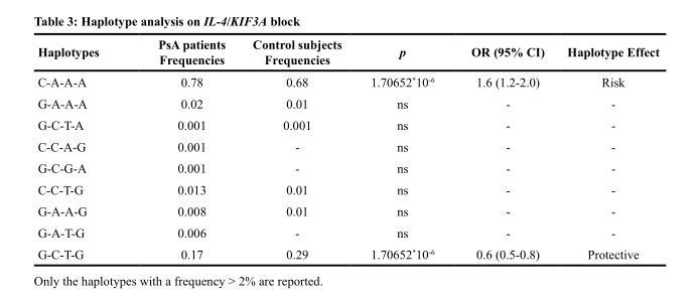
<table><thead><tr><td>Haplotypes</td><td>PsA patients Frequencies</td><td>Control subjects Frequencies</td><td>p</td><td>OR (95% CI)</td><td>Haplotype Effect</td></tr></thead><tbody><tr><td>C-A-A-A</td><td>0.78</td><td>0.68</td><td>1.70652*10<sup>-6</sup></td><td>1.6 (1.2-2.0)</td><td>Risk</td></tr><tr><td>G-A-A-A</td><td>0.02</td><td>0.01</td><td>ns</td><td>-</td><td>-</td></tr><tr><td>G-C-T-A</td><td>0.001</td><td>0.001</td><td>ns</td><td>-</td><td>-</td></tr><tr><td>C-C-A-G</td><td>0.001</td><td>-</td><td>ns</td><td>-</td><td>-</td></tr><tr><td>G-C-G-A</td><td>0.001</td><td>-</td><td>ns</td><td>-</td><td>-</td></tr><tr><td>C-C-T-G</td><td>0.013</td><td>0.01</td><td>ns</td><td>-</td><td>-</td></tr><tr><td>G-A-A-G</td><td>0.008</td><td>0.01</td><td>ns</td><td>-</td><td>-</td></tr><tr><td>G-A-T-G</td><td>0.006</td><td>-</td><td>ns</td><td>-</td><td>-</td></tr><tr><td>G-C-T-G</td><td>0.17</td><td>0.29</td><td>1.70652*10<sup>-6</sup></td><td>0.6 (0.5-0.8)</td><td>Protective</td></tr></tbody></table>